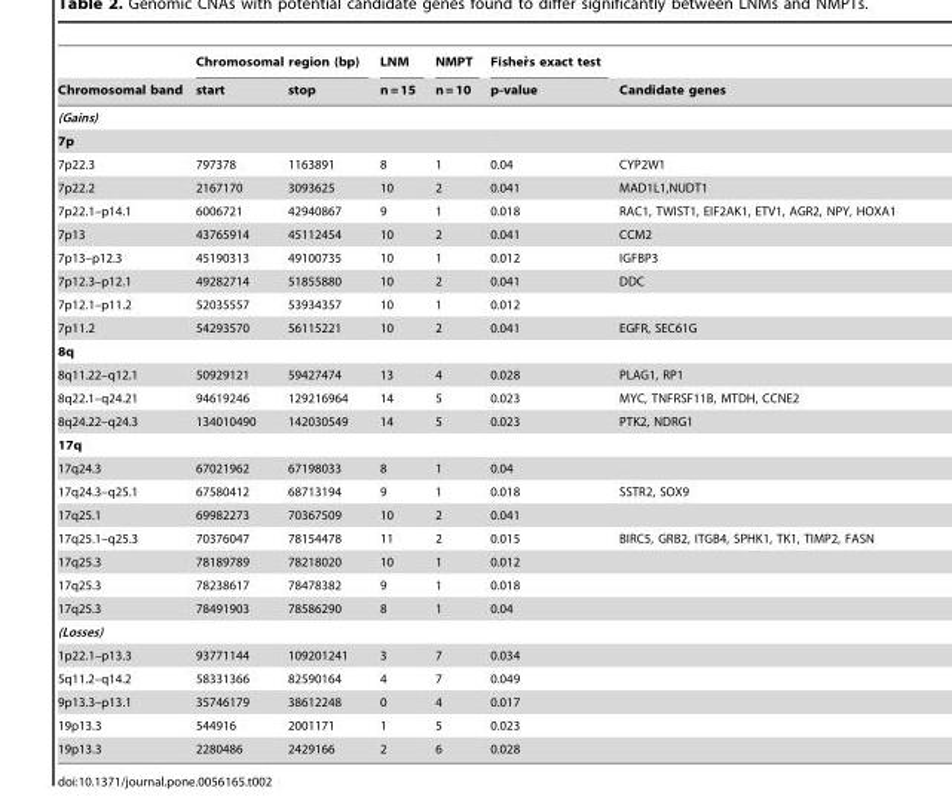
<table><thead><tr><td rowspan="2">Chromosomal band</td><td colspan="2">Chromosomal region (bp)</td><td rowspan="2">LNM n = 15</td><td rowspan="2">NMPT n = 10</td><td rowspan="2">Fisher`s exact test p-value</td><td rowspan="2">Candidate genes</td></tr><tr><td>start</td><td>stop</td></tr></thead><tbody><tr><td colspan="7">(Gains)</td></tr><tr><td colspan="7">7p</td></tr><tr><td>7p22.3</td><td>797378</td><td>1163891</td><td>8</td><td>1</td><td>0.04</td><td>CYP2W1</td></tr><tr><td>7p22.2</td><td>2167170</td><td>3093625</td><td>10</td><td>2</td><td>0.041</td><td>MAD1L1,NUDT1</td></tr><tr><td>7p22.1–p14.1</td><td>6006721</td><td>42940867</td><td>9</td><td>1</td><td>0.018</td><td>RAC1, TWIST1, EIF2AK1, ETV1, AGR2, NPY, HOXA1</td></tr><tr><td>7p13</td><td>43765914</td><td>45112454</td><td>10</td><td>2</td><td>0.041</td><td>CCM2</td></tr><tr><td>7p13–p12.3</td><td>45190313</td><td>49100735</td><td>10</td><td>1</td><td>0.012</td><td>IGFBP3</td></tr><tr><td>7p12.3–p12.1</td><td>49282714</td><td>51855880</td><td>10</td><td>2</td><td>0.041</td><td>DDC</td></tr><tr><td>7p12.1–p11.2</td><td>52035557</td><td>53934357</td><td>10</td><td>1</td><td>0.012</td><td></td></tr><tr><td>7p11.2</td><td>54293570</td><td>56115221</td><td>10</td><td>2</td><td>0.041</td><td>EGFR, SEC61G</td></tr><tr><td colspan="7">8q</td></tr><tr><td>8q11.22–q12.1</td><td>50929121</td><td>59427474</td><td>13</td><td>4</td><td>0.028</td><td>PLAG1, RP1</td></tr><tr><td>8q22.1–q24.21</td><td>94619246</td><td>129216964</td><td>14</td><td>5</td><td>0.023</td><td>MYC, TNFRSF11B, MTDH, CCNE2</td></tr><tr><td>8q24.22–q24.3</td><td>134010490</td><td>142030549</td><td>14</td><td>5</td><td>0.023</td><td>PTK2, NDRG1</td></tr><tr><td colspan="7">17q</td></tr><tr><td>17q24.3</td><td>67021962</td><td>67198033</td><td>8</td><td>1</td><td>0.04</td><td></td></tr><tr><td>17q24.3–q25.1</td><td>67580412</td><td>68713194</td><td>9</td><td>1</td><td>0.018</td><td>SSTR2, SOX9</td></tr><tr><td>17q25.1</td><td>69982273</td><td>70367509</td><td>10</td><td>2</td><td>0.041</td><td></td></tr><tr><td>17q25.1–q25.3</td><td>70376047</td><td>78154478</td><td>11</td><td>2</td><td>0.015</td><td>BIRC5, GRB2, ITGB4, SPHK1, TK1, TIMP2, FASN</td></tr><tr><td>17q25.3</td><td>78189789</td><td>78218020</td><td>10</td><td>1</td><td>0.012</td><td></td></tr><tr><td>17q25.3</td><td>78238617</td><td>78478382</td><td>9</td><td>1</td><td>0.018</td><td></td></tr><tr><td>17q25.3</td><td>78491903</td><td>78586290</td><td>8</td><td>1</td><td>0.04</td><td></td></tr><tr><td colspan="7">(Losses)</td></tr><tr><td>1p22.1–p13.3</td><td>93771144</td><td>109201241</td><td>3</td><td>7</td><td>0.034</td><td></td></tr><tr><td>5q11.2–q14.2</td><td>58331366</td><td>82590164</td><td>4</td><td>7</td><td>0.049</td><td></td></tr><tr><td>9p13.3–p13.1</td><td>35746179</td><td>38612248</td><td>0</td><td>4</td><td>0.017</td><td></td></tr><tr><td>19p13.3</td><td>544916</td><td>2001171</td><td>1</td><td>5</td><td>0.023</td><td></td></tr><tr><td>19p13.3</td><td>2280486</td><td>2429166</td><td>2</td><td>6</td><td>0.028</td><td></td></tr></tbody></table>